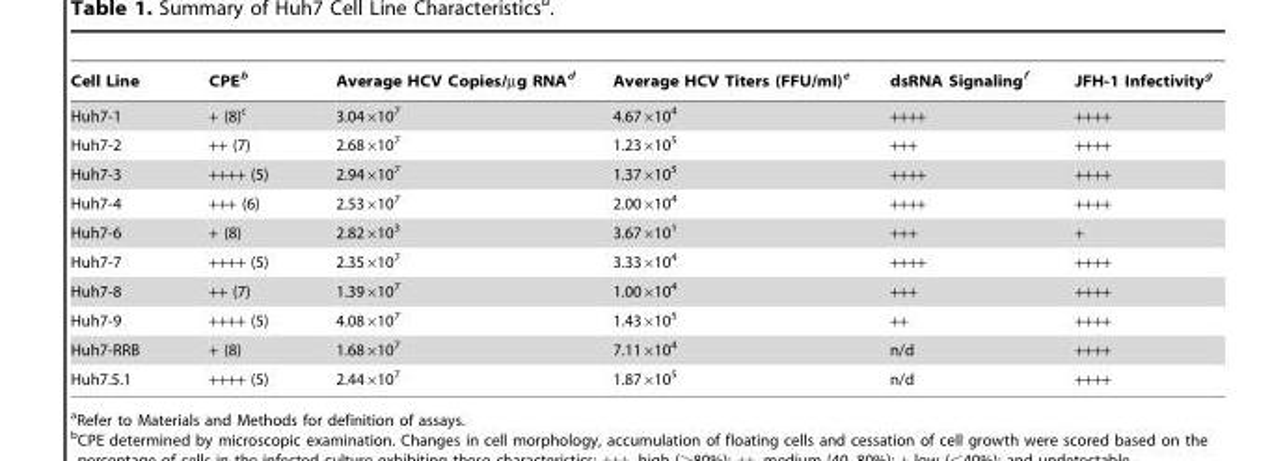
<table><thead><tr><td>Cell Line</td><td>CPE<sup>b</sup></td><td>Average HCV Copies/µg RNA<sup>d</sup></td><td>Average HCV Titers (FFU/ml)<sup>e</sup></td><td>dsRNA Signaling<sup>f</sup></td><td>JFH-1 Infectivity<sup>g</sup></td></tr></thead><tbody><tr><td>Huh7-1</td><td>+ (8)<sup>c</sup></td><td>3.04×10<sup>7</sup></td><td>4.67×10<sup>4</sup></td><td>++++</td><td>++++</td></tr><tr><td>Huh7-2</td><td>++ (7)</td><td>2.68×10<sup>7</sup></td><td>1.23×10<sup>5</sup></td><td>+++</td><td>++++</td></tr><tr><td>Huh7-3</td><td>++++ (5)</td><td>2.94×10<sup>7</sup></td><td>1.37×10<sup>5</sup></td><td>++++</td><td>++++</td></tr><tr><td>Huh7-4</td><td>+++ (6)</td><td>2.53×10<sup>7</sup></td><td>2.00×10<sup>4</sup></td><td>++++</td><td>++++</td></tr><tr><td>Huh7-6</td><td>+ (8)</td><td>2.82×10<sup>3</sup></td><td>3.67×10<sup>1</sup></td><td>+++</td><td>+</td></tr><tr><td>Huh7-7</td><td>++++ (5)</td><td>2.35×10<sup>7</sup></td><td>3.33×10<sup>4</sup></td><td>++++</td><td>++++</td></tr><tr><td>Huh7-8</td><td>++ (7)</td><td>1.39×10<sup>7</sup></td><td>1.00×10<sup>4</sup></td><td>+++</td><td>++++</td></tr><tr><td>Huh7-9</td><td>++++ (5)</td><td>4.08×10<sup>7</sup></td><td>1.43×10<sup>5</sup></td><td>++</td><td>++++</td></tr><tr><td>Huh7-RRB</td><td>+ (8)</td><td>1.68×10<sup>7</sup></td><td>7.11×10<sup>4</sup></td><td>n/d</td><td>++++</td></tr><tr><td>Huh7.5.1</td><td>++++ (5)</td><td>2.44×10<sup>7</sup></td><td>1.87×10<sup>5</sup></td><td>n/d</td><td>++++</td></tr></tbody></table>